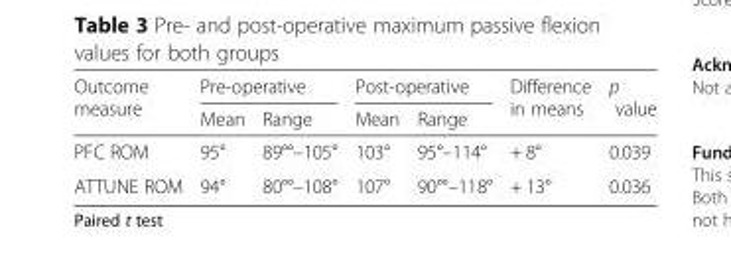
<table><thead><tr><td rowspan="2">Outcome measure</td><td colspan="2">Pre-operative</td><td colspan="2">Post-operative</td><td rowspan="2">Difference in means</td><td rowspan="2">p value</td></tr><tr><td>Mean</td><td>Range</td><td>Mean</td><td>Range</td></tr></thead><tbody><tr><td>PFC ROM</td><td>95°</td><td>89°°–105°</td><td>103°</td><td>95°–114°</td><td>+ 8°</td><td>0.039</td></tr><tr><td>ATTUNE ROM</td><td>94°</td><td>80°°–108°</td><td>107°</td><td>90°°–118°</td><td>+ 13°</td><td>0.036</td></tr></tbody></table>